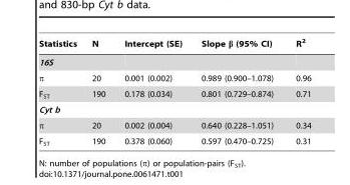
<table><thead><tr><td>Statistics</td><td>N</td><td>Intercept (SE)</td><td>Slope β (95% CI)</td><td>R<sup>2</sup></td></tr></thead><tbody><tr><td colspan="5">16S</td></tr><tr><td>π</td><td>20</td><td>0.001 (0.002)</td><td>0.989 (0.900–1.078)</td><td>0.96</td></tr><tr><td>F<sub>ST</sub></td><td>190</td><td>0.178 (0.034)</td><td>0.801 (0.729–0.874)</td><td>0.71</td></tr><tr><td colspan="5">Cyt b</td></tr><tr><td>π</td><td>20</td><td>0.002 (0.004)</td><td>0.640 (0.228–1.051)</td><td>0.34</td></tr><tr><td>F<sub>ST</sub></td><td>190</td><td>0.378 (0.060)</td><td>0.597 (0.470–0.725)</td><td>0.31</td></tr></tbody></table>